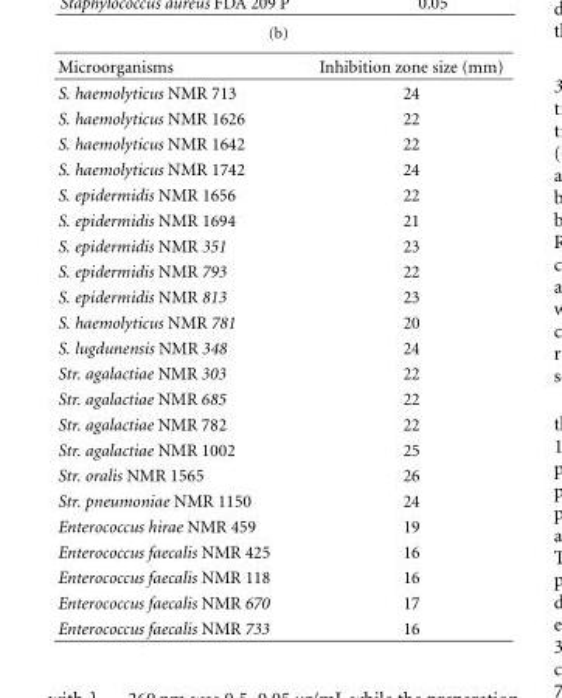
<table><thead><tr><td>Microorganisms</td><td>Inhibition zone size (mm)</td></tr></thead><tbody><tr><td>S. haemolyticus NMR 713</td><td>24</td></tr><tr><td>S. haemolyticus NMR 1626</td><td>22</td></tr><tr><td>S. haemolyticus NMR 1642</td><td>22</td></tr><tr><td>S. haemolyticus NMR 1742</td><td>24</td></tr><tr><td>S. epidermidis NMR 1656</td><td>22</td></tr><tr><td>S. epidermidis NMR 1694</td><td>21</td></tr><tr><td>S. epidermidis NMR 351</td><td>23</td></tr><tr><td>S. epidermidis NMR 793</td><td>22</td></tr><tr><td>S. epidermidis NMR 813</td><td>23</td></tr><tr><td>S. haemolyticus NMR 781</td><td>20</td></tr><tr><td>S. lugdunensis NMR 348</td><td>24</td></tr><tr><td>Str. agalactiae NMR 303</td><td>22</td></tr><tr><td>Str. agalactiae NMR 685</td><td>22</td></tr><tr><td>Str. agalactiae NMR 782</td><td>22</td></tr><tr><td>Str. agalactiae NMR 1002</td><td>25</td></tr><tr><td>Str. oralis NMR 1565</td><td>26</td></tr><tr><td>Str. pneumoniae NMR 1150</td><td>24</td></tr><tr><td>Enterococcus hirae NMR 459</td><td>19</td></tr><tr><td>Enterococcus faecalis NMR 425</td><td>16</td></tr><tr><td>Enterococcus faecalis NMR 118</td><td>16</td></tr><tr><td>Enterococcus faecalis NMR 670</td><td>17</td></tr><tr><td>Enterococcus faecalis NMR 733</td><td>16</td></tr></tbody></table>